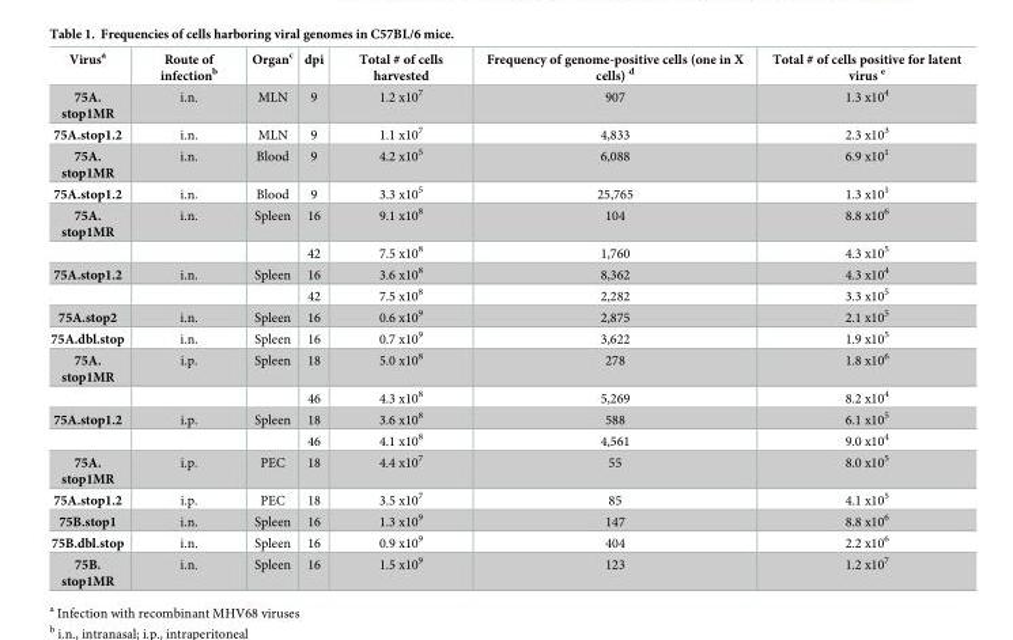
<table><thead><tr><td>Virus<sup>a</sup></td><td>Route of infection<sup>b</sup></td><td>Organ<sup>c</sup></td><td>dpi</td><td>Total # of cells harvested</td><td>Frequency of genome-positive cells (one in X cells) <sup>d</sup></td><td>Total # of cells positive for latent virus <sup>e</sup></td></tr></thead><tbody><tr><td>75A. stop1MR</td><td>i.n.</td><td>MLN</td><td>9</td><td>1.2 x10<sup>7</sup></td><td>907</td><td>1.3 x10<sup>4</sup></td></tr><tr><td>75A.stop1.2</td><td>i.n.</td><td>MLN</td><td>9</td><td>1.1 x10<sup>7</sup></td><td>4,833</td><td>2.3 x10<sup>3</sup></td></tr><tr><td>75A. stop1MR</td><td>i.n.</td><td>Blood</td><td>9</td><td>4.2 x10<sup>5</sup></td><td>6,088</td><td>6.9 x10<sup>1</sup></td></tr><tr><td>75A.stop1.2</td><td>i.n.</td><td>Blood</td><td>9</td><td>3.3 x10<sup>5</sup></td><td>25,765</td><td>1.3 x10<sup>1</sup></td></tr><tr><td rowspan="2">75A. stop1MR</td><td>i.n.</td><td>Spleen</td><td>16</td><td>9.1 x10<sup>8</sup></td><td>104</td><td>8.8 x10<sup>6</sup></td></tr><tr><td></td><td></td><td>42</td><td>7.5 x10<sup>8</sup></td><td>1,760</td><td>4.3 x10<sup>5</sup></td></tr><tr><td rowspan="2">75A.stop1.2</td><td>i.n.</td><td>Spleen</td><td>16</td><td>3.6 x10<sup>8</sup></td><td>8,362</td><td>4.3 x10<sup>4</sup></td></tr><tr><td></td><td></td><td>42</td><td>7.5 x10<sup>8</sup></td><td>2,282</td><td>3.3 x10<sup>5</sup></td></tr><tr><td>75A.stop2</td><td>i.n.</td><td>Spleen</td><td>16</td><td>0.6 x10<sup>9</sup></td><td>2,875</td><td>2.1 x10<sup>5</sup></td></tr><tr><td>75A.dbl.stop</td><td>i.n.</td><td>Spleen</td><td>16</td><td>0.7 x10<sup>9</sup></td><td>3,622</td><td>1.9 x10<sup>5</sup></td></tr><tr><td rowspan="2">75A. stop1MR</td><td>i.p.</td><td>Spleen</td><td>18</td><td>5.0 x10<sup>8</sup></td><td>278</td><td>1.8 x10<sup>6</sup></td></tr><tr><td></td><td></td><td>46</td><td>4.3 x10<sup>8</sup></td><td>5,269</td><td>8.2 x10<sup>4</sup></td></tr><tr><td rowspan="2">75A.stop1.2</td><td>i.p.</td><td>Spleen</td><td>18</td><td>3.6 x10<sup>8</sup></td><td>588</td><td>6.1 x10<sup>5</sup></td></tr><tr><td></td><td></td><td>46</td><td>4.1 x10<sup>8</sup></td><td>4,561</td><td>9.0 x10<sup>4</sup></td></tr><tr><td>75A. stop1MR</td><td>i.p.</td><td>PEC</td><td>18</td><td>4.4 x10<sup>7</sup></td><td>55</td><td>8.0 x10<sup>5</sup></td></tr><tr><td>75A.stop1.2</td><td>i.p.</td><td>PEC</td><td>18</td><td>3.5 x10<sup>7</sup></td><td>85</td><td>4.1 x10<sup>5</sup></td></tr><tr><td>75B.stop1</td><td>i.n.</td><td>Spleen</td><td>16</td><td>1.3 x10<sup>9</sup></td><td>147</td><td>8.8 x10<sup>6</sup></td></tr><tr><td>75B.dbl.stop</td><td>i.n.</td><td>Spleen</td><td>16</td><td>0.9 x10<sup>9</sup></td><td>404</td><td>2.2 x10<sup>6</sup></td></tr><tr><td>75B. stop1MR</td><td>i.n.</td><td>Spleen</td><td>16</td><td>1.5 x10<sup>9</sup></td><td>123</td><td>1.2 x10<sup>7</sup></td></tr></tbody></table>